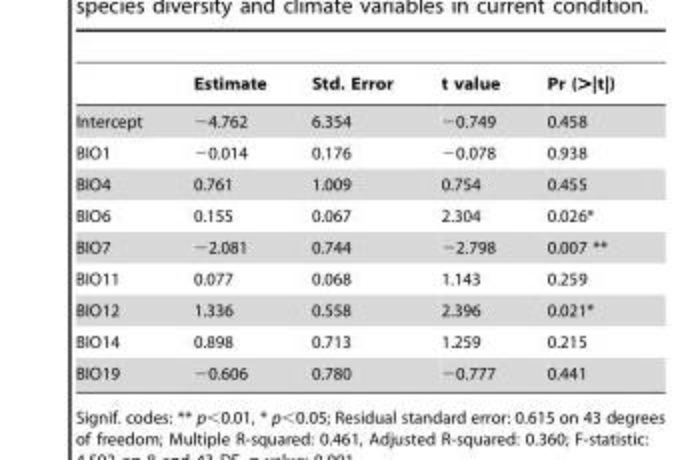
<table><thead><tr><td></td><td>Estimate</td><td>Std. Error</td><td>t value</td><td>Pr (&gt;|t|)</td></tr></thead><tbody><tr><td>Intercept</td><td>−4.762</td><td>6.354</td><td>−0.749</td><td>0.458</td></tr><tr><td>BIO1</td><td>−0.014</td><td>0.176</td><td>−0.078</td><td>0.938</td></tr><tr><td>BIO4</td><td>0.761</td><td>1.009</td><td>0.754</td><td>0.455</td></tr><tr><td>BIO6</td><td>0.155</td><td>0.067</td><td>2.304</td><td>0.026*</td></tr><tr><td>BIO7</td><td>−2.081</td><td>0.744</td><td>−2.798</td><td>0.007 **</td></tr><tr><td>BIO11</td><td>0.077</td><td>0.068</td><td>1.143</td><td>0.259</td></tr><tr><td>BIO12</td><td>1.336</td><td>0.558</td><td>2.396</td><td>0.021*</td></tr><tr><td>BIO14</td><td>0.898</td><td>0.713</td><td>1.259</td><td>0.215</td></tr><tr><td>BIO19</td><td>−0.606</td><td>0.780</td><td>−0.777</td><td>0.441</td></tr></tbody></table>